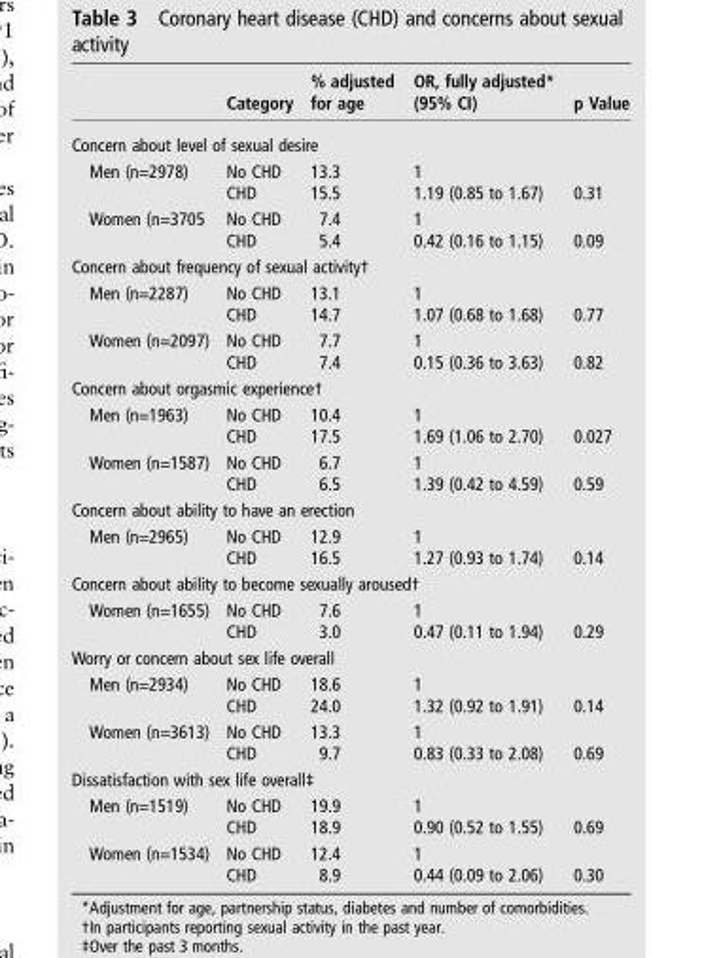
<table><thead><tr><td></td><td>Category</td><td>% adjusted for age</td><td>OR, fully adjusted* (95% CI)</td><td>p Value</td></tr></thead><tbody><tr><td colspan="5">Concern about level of sexual desire</td></tr><tr><td rowspan="2">Men (n=2978)</td><td>No CHD</td><td>13.3</td><td>1</td><td></td></tr><tr><td>CHD</td><td>15.5</td><td>1.19 (0.85 to 1.67)</td><td>0.31</td></tr><tr><td rowspan="2">Women (n=3705</td><td>No CHD</td><td>7.4</td><td>1</td><td></td></tr><tr><td>CHD</td><td>5.4</td><td>0.42 (0.16 to 1.15)</td><td>0.09</td></tr><tr><td colspan="5">Concern about frequency of sexual activity†</td></tr><tr><td rowspan="2">Men (n=2287)</td><td>No CHD</td><td>13.1</td><td>1</td><td></td></tr><tr><td>CHD</td><td>14.7</td><td>1.07 (0.68 to 1.68)</td><td>0.77</td></tr><tr><td rowspan="2">Women (n=2097)</td><td>No CHD</td><td>7.7</td><td>1</td><td></td></tr><tr><td>CHD</td><td>7.4</td><td>0.15 (0.36 to 3.63)</td><td>0.82</td></tr><tr><td colspan="5">Concern about orgasmic experience†</td></tr><tr><td rowspan="2">Men (n=1963)</td><td>No CHD</td><td>10.4</td><td>1</td><td></td></tr><tr><td>CHD</td><td>17.5</td><td>1.69 (1.06 to 2.70)</td><td>0.027</td></tr><tr><td rowspan="2">Women (n=1587)</td><td>No CHD</td><td>6.7</td><td>1</td><td></td></tr><tr><td>CHD</td><td>6.5</td><td>1.39 (0.42 to 4.59)</td><td>0.59</td></tr><tr><td colspan="5">Concern about ability to have an erection</td></tr><tr><td rowspan="2">Men (n=2965)</td><td>No CHD</td><td>12.9</td><td>1</td><td></td></tr><tr><td>CHD</td><td>16.5</td><td>1.27 (0.93 to 1.74)</td><td>0.14</td></tr><tr><td colspan="5">Concern about ability to become sexually aroused†</td></tr><tr><td rowspan="2">Women (n=1655)</td><td>No CHD</td><td>7.6</td><td>1</td><td></td></tr><tr><td>CHD</td><td>3.0</td><td>0.47 (0.11 to 1.94)</td><td>0.29</td></tr><tr><td colspan="5">Worry or concern about sex life overall</td></tr><tr><td rowspan="2">Men (n=2934)</td><td>No CHD</td><td>18.6</td><td>1</td><td></td></tr><tr><td>CHD</td><td>24.0</td><td>1.32 (0.92 to 1.91)</td><td>0.14</td></tr><tr><td rowspan="2">Women (n=3613)</td><td>No CHD</td><td>13.3</td><td>1</td><td></td></tr><tr><td>CHD</td><td>9.7</td><td>0.83 (0.33 to 2.08)</td><td>0.69</td></tr><tr><td colspan="5">Dissatisfaction with sex life overall‡</td></tr><tr><td rowspan="2">Men (n=1519)</td><td>No CHD</td><td>19.9</td><td>1</td><td></td></tr><tr><td>CHD</td><td>18.9</td><td>0.90 (0.52 to 1.55)</td><td>0.69</td></tr><tr><td rowspan="2">Women (n=1534)</td><td>No CHD</td><td>12.4</td><td>1</td><td></td></tr><tr><td>CHD</td><td>8.9</td><td>0.44 (0.09 to 2.06)</td><td>0.30</td></tr></tbody></table>